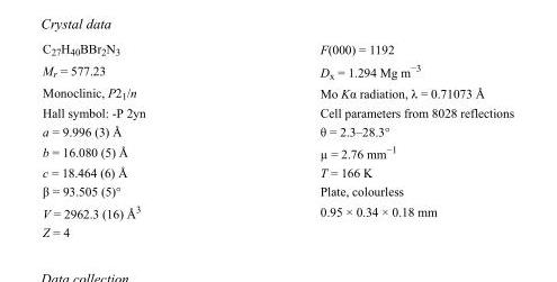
<table><tbody><tr><td>C<sub>27</sub>H<sub>40</sub>BBr<sub>2</sub>N<sub>3</sub></td><td>F(000) = 1192</td></tr><tr><td>M<sub>r</sub> = 577.23</td><td>D<sub>x</sub> = 1.294 Mg m<sup>−3</sup></td></tr><tr><td>Monoclinic, P2<sub>1</sub>/n</td><td>Mo Kα radiation, λ = 0.71073 Å</td></tr><tr><td>Hall symbol: -P 2yn</td><td>Cell parameters from 8028 reflections</td></tr><tr><td>a = 9.996 (3) Å</td><td>θ = 2.3–28.3°</td></tr><tr><td>b = 16.080 (5) Å</td><td>µ = 2.76 mm<sup>−1</sup></td></tr><tr><td>c = 18.464 (6) Å</td><td>T = 166 K</td></tr><tr><td>β = 93.505 (5)°</td><td>Plate, colourless</td></tr><tr><td>V = 2962.3 (16) Å<sup>3</sup></td><td>0.95 × 0.34 × 0.18 mm</td></tr><tr><td>Z = 4</td><td></td></tr></tbody></table>